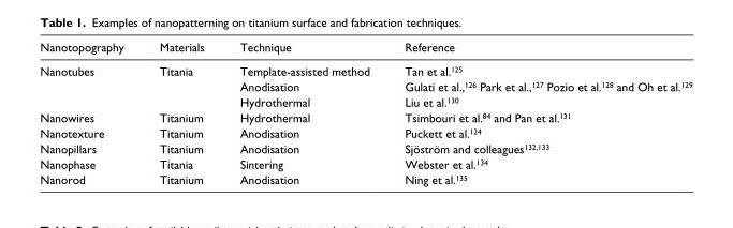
<table><thead><tr><td>Nanotopography</td><td>Materials</td><td>Technique</td><td>Reference</td></tr></thead><tbody><tr><td rowspan="3">Nanotubes</td><td rowspan="3">Titania</td><td>Template-assisted method</td><td>Tan et al.<sup>125</sup></td></tr><tr><td>Anodisation</td><td>Gulati et al.,<sup>126</sup> Park et al.,<sup>127</sup> Pozio et al.<sup>128</sup> and Oh et al.<sup>129</sup></td></tr><tr><td>Hydrothermal</td><td>Liu et al.<sup>130</sup></td></tr><tr><td>Nanowires</td><td>Titanium</td><td>Hydrothermal</td><td>Tsimbouri et al.<sup>84</sup> and Pan et al.<sup>131</sup></td></tr><tr><td>Nanotexture</td><td>Titanium</td><td>Anodisation</td><td>Puckett et al.<sup>124</sup></td></tr><tr><td>Nanopillars</td><td>Titanium</td><td>Anodisation</td><td>Sjöström and colleagues<sup>132,133</sup></td></tr><tr><td>Nanophase</td><td>Titania</td><td>Sintering</td><td>Webster et al.<sup>134</sup></td></tr><tr><td>Nanorod</td><td>Titanium</td><td>Anodisation</td><td>Ning et al.<sup>135</sup></td></tr></tbody></table>